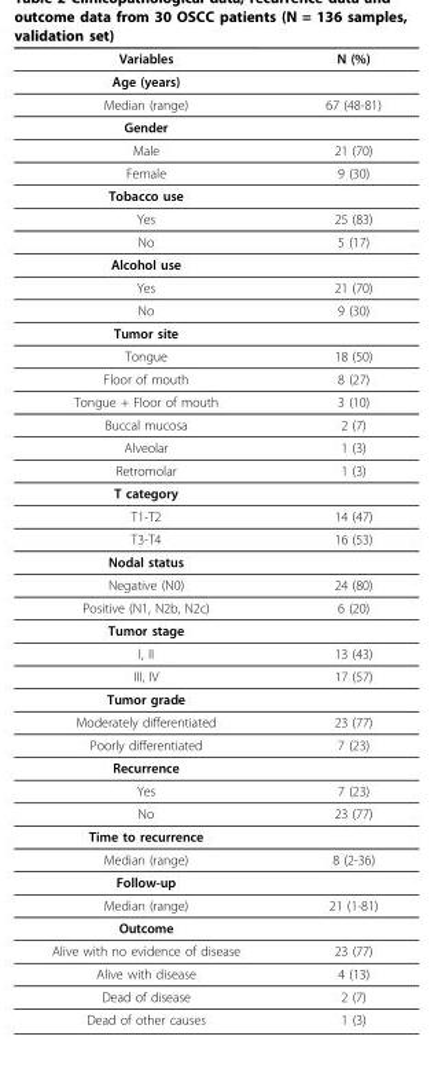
<table><thead><tr><td>Variables</td><td>N (%)</td></tr></thead><tbody><tr><td colspan="2">Age (years)</td></tr><tr><td>Median (range)</td><td>67 (48-81)</td></tr><tr><td colspan="2">Gender</td></tr><tr><td>Male</td><td>21 (70)</td></tr><tr><td>Female</td><td>9 (30)</td></tr><tr><td colspan="2">Tobacco use</td></tr><tr><td>Yes</td><td>25 (83)</td></tr><tr><td>No</td><td>5 (17)</td></tr><tr><td colspan="2">Alcohol use</td></tr><tr><td>Yes</td><td>21 (70)</td></tr><tr><td>No</td><td>9 (30)</td></tr><tr><td colspan="2">Tumor site</td></tr><tr><td>Tongue</td><td>18 (50)</td></tr><tr><td>Floor of mouth</td><td>8 (27)</td></tr><tr><td>Tongue + Floor of mouth</td><td>3 (10)</td></tr><tr><td>Buccal mucosa</td><td>2 (7)</td></tr><tr><td>Alveolar</td><td>1 (3)</td></tr><tr><td>Retromolar</td><td>1 (3)</td></tr><tr><td colspan="2">T category</td></tr><tr><td>T1-T2</td><td>14 (47)</td></tr><tr><td>T3-T4</td><td>16 (53)</td></tr><tr><td colspan="2">Nodal status</td></tr><tr><td>Negative (N0)</td><td>24 (80)</td></tr><tr><td>Positive (N1, N2b, N2c)</td><td>6 (20)</td></tr><tr><td colspan="2">Tumor stage</td></tr><tr><td>I, II</td><td>13 (43)</td></tr><tr><td>III, IV</td><td>17 (57)</td></tr><tr><td colspan="2">Tumor grade</td></tr><tr><td>Moderately differentiated</td><td>23 (77)</td></tr><tr><td>Poorly differentiated</td><td>7 (23)</td></tr><tr><td colspan="2">Recurrence</td></tr><tr><td>Yes</td><td>7 (23)</td></tr><tr><td>No</td><td>23 (77)</td></tr><tr><td colspan="2">Time to recurrence</td></tr><tr><td>Median (range)</td><td>8 (2-36)</td></tr><tr><td colspan="2">Follow-up</td></tr><tr><td>Median (range)</td><td>21 (1-81)</td></tr><tr><td colspan="2">Outcome</td></tr><tr><td>Alive with no evidence of disease</td><td>23 (77)</td></tr><tr><td>Alive with disease</td><td>4 (13)</td></tr><tr><td>Dead of disease</td><td>2 (7)</td></tr><tr><td>Dead of other causes</td><td>1 (3)</td></tr></tbody></table>